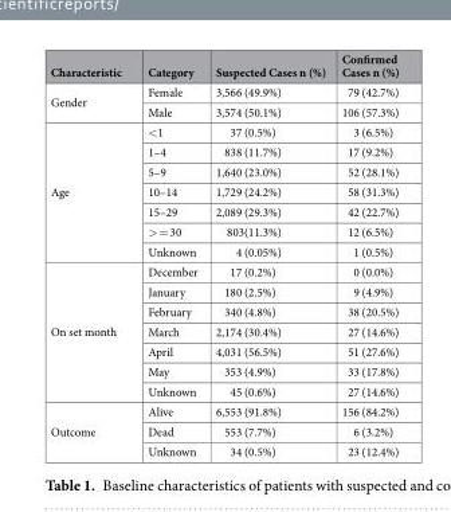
<table><thead><tr><td>Characteristic</td><td>Category</td><td>Suspected Cases n (%)</td><td>Confirmed Cases n (%)</td></tr></thead><tbody><tr><td rowspan="2">Gender</td><td>Female</td><td>3,566 (49.9%)</td><td>79 (42.7%)</td></tr><tr><td>Male</td><td>3,574 (50.1%)</td><td>106 (57.3%)</td></tr><tr><td rowspan="7">Age</td><td>&lt;1</td><td>37 (0.5%)</td><td>3 (6.5%)</td></tr><tr><td>1–4</td><td>838 (11.7%)</td><td>17 (9.2%)</td></tr><tr><td>5–9</td><td>1,640 (23.0%)</td><td>52 (28.1%)</td></tr><tr><td>10–14</td><td>1,729 (24.2%)</td><td>58 (31.3%)</td></tr><tr><td>15–29</td><td>2,089 (29.3%)</td><td>42 (22.7%)</td></tr><tr><td>&gt; = 30</td><td>803(11.3%)</td><td>12 (6.5%)</td></tr><tr><td>Unknown</td><td>4 (0.05%)</td><td>1 (0.5%)</td></tr><tr><td rowspan="7">On set month</td><td>December</td><td>17 (0.2%)</td><td>0 (0.0%)</td></tr><tr><td>January</td><td>180 (2.5%)</td><td>9 (4.9%)</td></tr><tr><td>February</td><td>340 (4.8%)</td><td>38 (20.5%)</td></tr><tr><td>March</td><td>2,174 (30.4%)</td><td>27 (14.6%)</td></tr><tr><td>April</td><td>4,031 (56.5%)</td><td>51 (27.6%)</td></tr><tr><td>May</td><td>353 (4.9%)</td><td>33 (17.8%)</td></tr><tr><td>Unknown</td><td>45 (0.6%)</td><td>27 (14.6%)</td></tr><tr><td rowspan="3">Outcome</td><td>Alive</td><td>6,553 (91.8%)</td><td>156 (84.2%)</td></tr><tr><td>Dead</td><td>553 (7.7%)</td><td>6 (3.2%)</td></tr><tr><td>Unknown</td><td>34 (0.5%)</td><td>23 (12.4%)</td></tr></tbody></table>